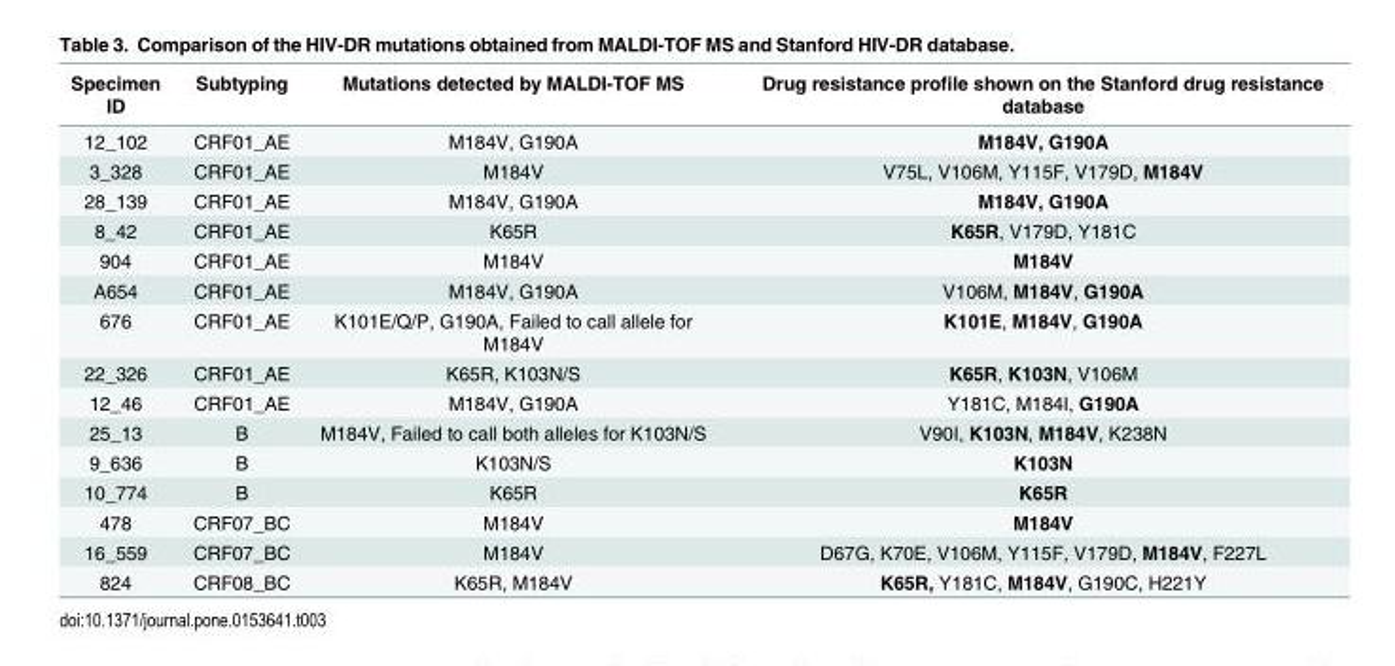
<table><thead><tr><td>Specimen ID</td><td>Subtyping</td><td>Mutations detected by MALDI-TOF MS</td><td>Drug resistance profile shown on the Stanford drug resistance database</td></tr></thead><tbody><tr><td>12_102</td><td>CRF01_AE</td><td>M184V, G190A</td><td>M184V, G190A</td></tr><tr><td>3_328</td><td>CRF01_AE</td><td>M184V</td><td>V75L, V106M, Y115F, V179D, M184V</td></tr><tr><td>28_139</td><td>CRF01_AE</td><td>M184V, G190A</td><td>M184V, G190A</td></tr><tr><td>8_42</td><td>CRF01_AE</td><td>K65R</td><td>K65R, V179D, Y181C</td></tr><tr><td>904</td><td>CRF01_AE</td><td>M184V</td><td>M184V</td></tr><tr><td>A654</td><td>CRF01_AE</td><td>M184V, G190A</td><td>V106M, M184V, G190A</td></tr><tr><td>676</td><td>CRF01_AE</td><td>K101E/Q/P, G190A, Failed to call allele for M184V</td><td>K101E, M184V, G190A</td></tr><tr><td>22_326</td><td>CRF01_AE</td><td>K65R, K103N/S</td><td>K65R, K103N, V106M</td></tr><tr><td>12_46</td><td>CRF01_AE</td><td>M184V, G190A</td><td>Y181C, M184I, G190A</td></tr><tr><td>25_13</td><td>B</td><td>M184V, Failed to call both alleles for K103N/S</td><td>V90I, K103N, M184V, K238N</td></tr><tr><td>9_636</td><td>B</td><td>K103N/S</td><td>K103N</td></tr><tr><td>10_774</td><td>B</td><td>K65R</td><td>K65R</td></tr><tr><td>478</td><td>CRF07_BC</td><td>M184V</td><td>M184V</td></tr><tr><td>16_559</td><td>CRF07_BC</td><td>M184V</td><td>D67G, K70E, V106M, Y115F, V179D, M184V, F227L</td></tr><tr><td>824</td><td>CRF08_BC</td><td>K65R, M184V</td><td>K65R, Y181C, M184V, G190C, H221Y</td></tr></tbody></table>